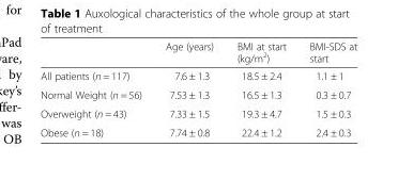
<table><thead><tr><td></td><td>Age (years)</td><td>BMI at start (kg/m<sup>2</sup>)</td><td>BMI-SDS at start</td></tr></thead><tbody><tr><td>All patients (n = 117)</td><td>7.6 ± 1.3</td><td>18.5 ± 2.4</td><td>1.1 ± 1</td></tr><tr><td>Normal Weight (n = 56)</td><td>7.53 ± 1.3</td><td>16.5 ± 1.3</td><td>0.3 ± 0.7</td></tr><tr><td>Overweight (n = 43)</td><td>7.33 ± 1.5</td><td>19.3 ± 4.7</td><td>1.5 ± 0.3</td></tr><tr><td>Obese (n = 18)</td><td>7.74 ± 0.8</td><td>22.4 ± 1.2</td><td>2.4 ± 0.3</td></tr></tbody></table>